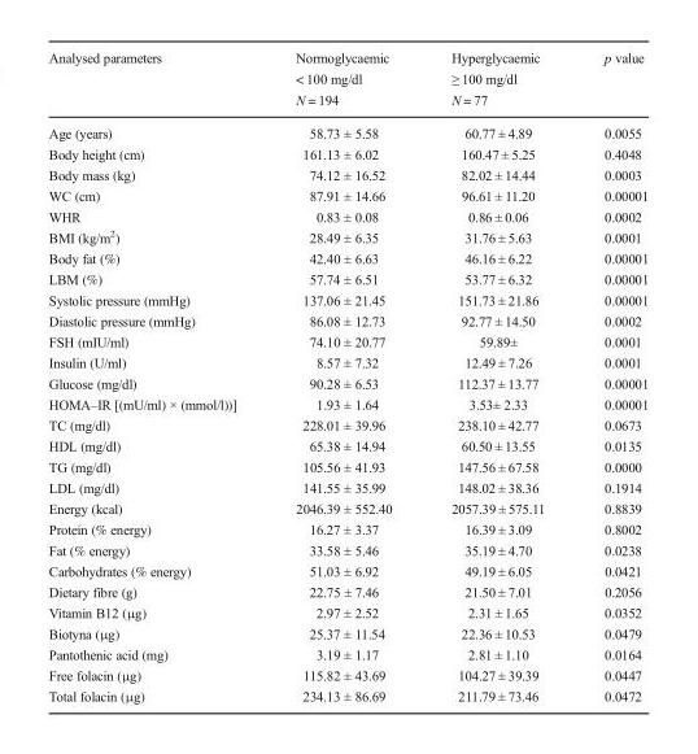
<table><thead><tr><td>Analysed parameters</td><td>Normoglycaemic &lt; 100 mg/dl N = 194</td><td>Hyperglycaemic ≥ 100 mg/dl N = 77</td><td>p value</td></tr></thead><tbody><tr><td>Age (years)</td><td>58.73 ± 5.58</td><td>60.77 ± 4.89</td><td>0.0055</td></tr><tr><td>Body height (cm)</td><td>161.13 ± 6.02</td><td>160.47 ± 5.25</td><td>0.4048</td></tr><tr><td>Body mass (kg)</td><td>74.12 ± 16.52</td><td>82.02 ± 14.44</td><td>0.0003</td></tr><tr><td>WC (cm)</td><td>87.91 ± 14.66</td><td>96.61 ± 11.20</td><td>0.00001</td></tr><tr><td>WHR</td><td>0.83 ± 0.08</td><td>0.86 ± 0.06</td><td>0.0002</td></tr><tr><td>BMI (kg/m<sup>2</sup>)</td><td>28.49 ± 6.35</td><td>31.76 ± 5.63</td><td>0.0001</td></tr><tr><td>Body fat (%)</td><td>42.40 ± 6.63</td><td>46.16 ± 6.22</td><td>0.00001</td></tr><tr><td>LBM (%)</td><td>57.74 ± 6.51</td><td>53.77 ± 6.32</td><td>0.00001</td></tr><tr><td>Systolic pressure (mmHg)</td><td>137.06 ± 21.45</td><td>151.73 ± 21.86</td><td>0.00001</td></tr><tr><td>Diastolic pressure (mmHg)</td><td>86.08 ± 12.73</td><td>92.77 ± 14.50</td><td>0.0002</td></tr><tr><td>FSH (mIU/ml)</td><td>74.10 ± 20.77</td><td>59.89±</td><td>0.0001</td></tr><tr><td>Insulin (U/ml)</td><td>8.57 ± 7.32</td><td>12.49 ± 7.26</td><td>0.0001</td></tr><tr><td>Glucose (mg/dl)</td><td>90.28 ± 6.53</td><td>112.37 ± 13.77</td><td>0.00001</td></tr><tr><td>HOMA–IR [(mU/ml) × (mmol/l))]</td><td>1.93 ± 1.64</td><td>3.53± 2.33</td><td>0.00001</td></tr><tr><td>TC (mg/dl)</td><td>228.01 ± 39.96</td><td>238.10 ± 42.77</td><td>0.0673</td></tr><tr><td>HDL (mg/dl)</td><td>65.38 ± 14.94</td><td>60.50 ± 13.55</td><td>0.0135</td></tr><tr><td>TG (mg/dl)</td><td>105.56 ± 41.93</td><td>147.56 ± 67.58</td><td>0.0000</td></tr><tr><td>LDL (mg/dl)</td><td>141.55 ± 35.99</td><td>148.02 ± 38.36</td><td>0.1914</td></tr><tr><td>Energy (kcal)</td><td>2046.39 ± 552.40</td><td>2057.39 ± 575.11</td><td>0.8839</td></tr><tr><td>Protein (% energy)</td><td>16.27 ± 3.37</td><td>16.39 ± 3.09</td><td>0.8002</td></tr><tr><td>Fat (% energy)</td><td>33.58 ± 5.46</td><td>35.19 ± 4.70</td><td>0.0238</td></tr><tr><td>Carbohydrates (% energy)</td><td>51.03 ± 6.92</td><td>49.19 ± 6.05</td><td>0.0421</td></tr><tr><td>Dietary fibre (g)</td><td>22.75 ± 7.46</td><td>21.50 ± 7.01</td><td>0.2056</td></tr><tr><td>Vitamin B12 (μg)</td><td>2.97 ± 2.52</td><td>2.31 ± 1.65</td><td>0.0352</td></tr><tr><td>Biotyna (μg)</td><td>25.37 ± 11.54</td><td>22.36 ± 10.53</td><td>0.0479</td></tr><tr><td>Pantothenic acid (mg)</td><td>3.19 ± 1.17</td><td>2.81 ± 1.10</td><td>0.0164</td></tr><tr><td>Free folacin (μg)</td><td>115.82 ± 43.69</td><td>104.27 ± 39.39</td><td>0.0447</td></tr><tr><td>Total folacin (μg)</td><td>234.13 ± 86.69</td><td>211.79 ± 73.46</td><td>0.0472</td></tr></tbody></table>